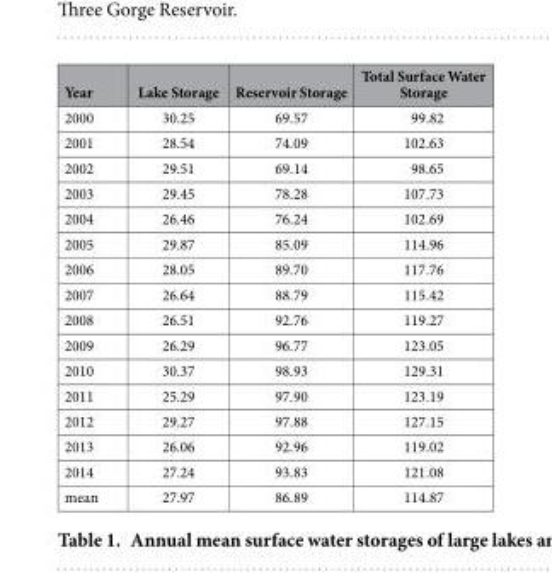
<table><thead><tr><td>Year</td><td>Lake Storage</td><td>Reservoir Storage</td><td>Total Surface Water Storage</td></tr></thead><tbody><tr><td>2000</td><td>30.25</td><td>69.57</td><td>99.82</td></tr><tr><td>2001</td><td>28.54</td><td>74.09</td><td>102.63</td></tr><tr><td>2002</td><td>29.51</td><td>69.14</td><td>98.65</td></tr><tr><td>2003</td><td>29.45</td><td>78.28</td><td>107.73</td></tr><tr><td>2004</td><td>26.46</td><td>76.24</td><td>102.69</td></tr><tr><td>2005</td><td>29.87</td><td>85.09</td><td>114.96</td></tr><tr><td>2006</td><td>28.05</td><td>89.70</td><td>117.76</td></tr><tr><td>2007</td><td>26.64</td><td>88.79</td><td>115.42</td></tr><tr><td>2008</td><td>26.51</td><td>92.76</td><td>119.27</td></tr><tr><td>2009</td><td>26.29</td><td>96.77</td><td>123.05</td></tr><tr><td>2010</td><td>30.37</td><td>98.93</td><td>129.31</td></tr><tr><td>2011</td><td>25.29</td><td>97.90</td><td>123.19</td></tr><tr><td>2012</td><td>29.27</td><td>97.88</td><td>127.15</td></tr><tr><td>2013</td><td>26.06</td><td>92.96</td><td>119.02</td></tr><tr><td>2014</td><td>27.24</td><td>93.83</td><td>121.08</td></tr><tr><td>mean</td><td>27.97</td><td>86.89</td><td>114.87</td></tr></tbody></table>